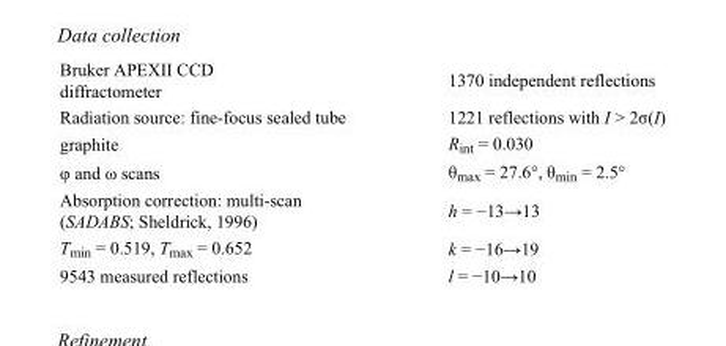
<table><tbody><tr><td>Bruker APEXII CCD diffractometer</td><td>1370 independent reflections</td></tr><tr><td>Radiation source: fine-focus sealed tube</td><td>1221 reflections with I &gt; 2σ(I)</td></tr><tr><td>graphite</td><td>R<sub>int</sub> = 0.030</td></tr><tr><td>φ and ω scans</td><td>θ<sub>max</sub> = 27.6°, θ<sub>min</sub> = 2.5°</td></tr><tr><td>Absorption correction: multi-scan (SADABS; Sheldrick, 1996)</td><td>h = −13→13</td></tr><tr><td>T<sub>min</sub> = 0.519, T<sub>max</sub> = 0.652</td><td>k = −16→19</td></tr><tr><td>9543 measured reflections</td><td>l = −10→10</td></tr></tbody></table>